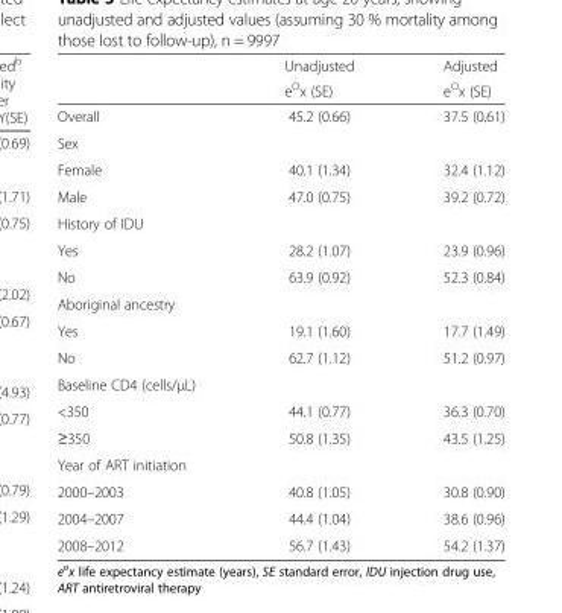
<table><thead><tr><td rowspan="2"></td><td rowspan="2">Unadjusted e<sup>O</sup>x (SE)</td><td rowspan="2">Adjusted e<sup>O</sup>x (SE)</td></tr><tr></tr></thead><tbody><tr><td>Overall</td><td>45.2 (0.66)</td><td>37.5 (0.61)</td></tr><tr><td colspan="3">Sex</td></tr><tr><td>Female</td><td>40.1 (1.34)</td><td>32.4 (1.12)</td></tr><tr><td>Male</td><td>47.0 (0.75)</td><td>39.2 (0.72)</td></tr><tr><td colspan="3">History of IDU</td></tr><tr><td>Yes</td><td>28.2 (1.07)</td><td>23.9 (0.96)</td></tr><tr><td>No</td><td>63.9 (0.92)</td><td>52.3 (0.84)</td></tr><tr><td colspan="3">Aboriginal ancestry</td></tr><tr><td>Yes</td><td>19.1 (1.60)</td><td>17.7 (1.49)</td></tr><tr><td>No</td><td>62.7 (1.12)</td><td>51.2 (0.97)</td></tr><tr><td colspan="3">Baseline CD4 (cells/μL)</td></tr><tr><td>&lt;350</td><td>44.1 (0.77)</td><td>36.3 (0.70)</td></tr><tr><td>≥350</td><td>50.8 (1.35)</td><td>43.5 (1.25)</td></tr><tr><td colspan="3">Year of ART initiation</td></tr><tr><td>2000–2003</td><td>40.8 (1.05)</td><td>30.8 (0.90)</td></tr><tr><td>2004–2007</td><td>44.4 (1.04)</td><td>38.6 (0.96)</td></tr><tr><td>2008–2012</td><td>56.7 (1.43)</td><td>54.2 (1.37)</td></tr></tbody></table>